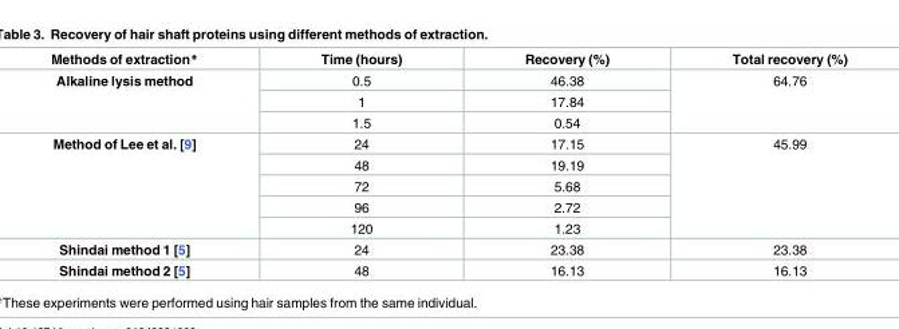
<table><thead><tr><td>Methods of extraction*</td><td>Time (hours)</td><td>Recovery (%)</td><td>Total recovery (%)</td></tr></thead><tbody><tr><td rowspan="3">Alkaline lysis method</td><td>0.5</td><td>46.38</td><td rowspan="3">64.76</td></tr><tr><td>1</td><td>17.84</td></tr><tr><td>1.5</td><td>0.54</td></tr><tr><td rowspan="5">Method of Lee et al. [9]</td><td>24</td><td>17.15</td><td rowspan="5">45.99</td></tr><tr><td>48</td><td>19.19</td></tr><tr><td>72</td><td>5.68</td></tr><tr><td>96</td><td>2.72</td></tr><tr><td>120</td><td>1.23</td></tr><tr><td>Shindai method 1 [5]</td><td>24</td><td>23.38</td><td>23.38</td></tr><tr><td>Shindai method 2 [5]</td><td>48</td><td>16.13</td><td>16.13</td></tr></tbody></table>